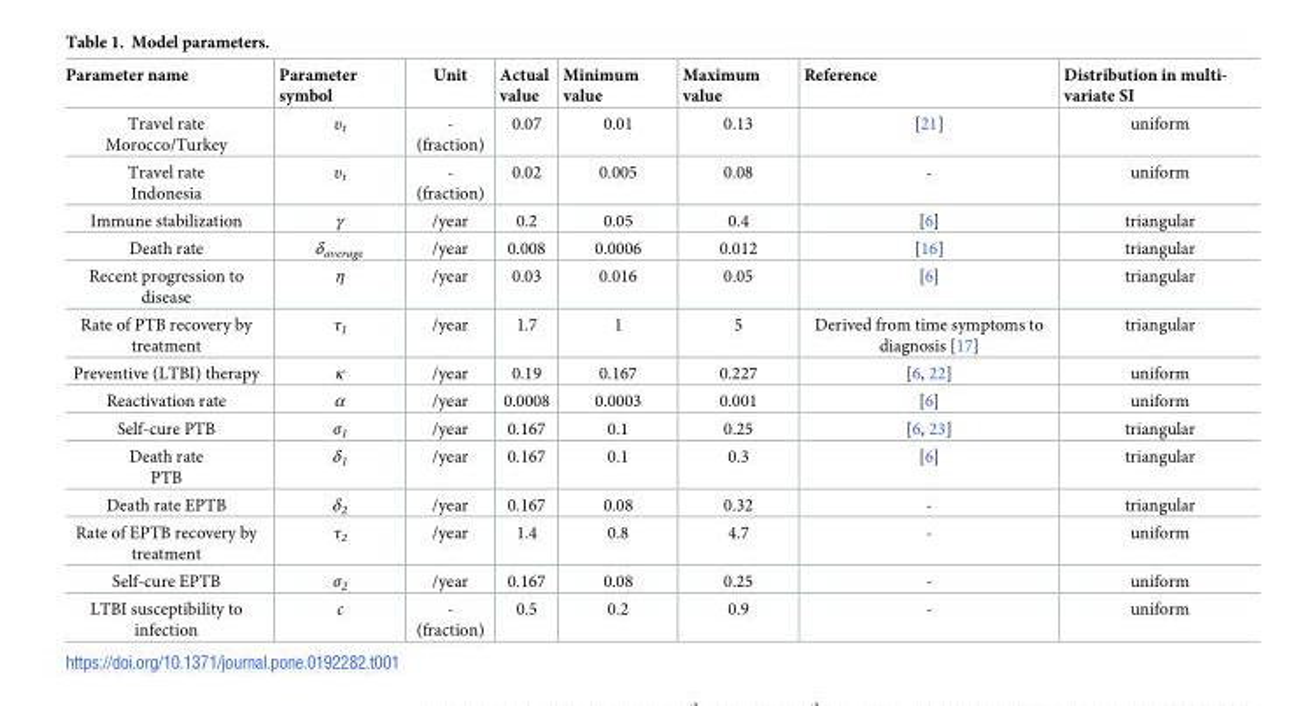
<table><thead><tr><td>Parameter name</td><td>Parameter symbol</td><td>Unit</td><td>Actual value</td><td>Minimum value</td><td>Maximum value</td><td>Reference</td><td>Distribution in multi- variate SI</td></tr></thead><tbody><tr><td>Travel rate Morocco/Turkey</td><td>υ<sub>t</sub></td><td>- (fraction)</td><td>0.07</td><td>0.01</td><td>0.13</td><td>[21]</td><td>uniform</td></tr><tr><td>Travel rate Indonesia</td><td>υ<sub>t</sub></td><td>- (fraction)</td><td>0.02</td><td>0.005</td><td>0.08</td><td>-</td><td>uniform</td></tr><tr><td>Immune stabilization</td><td>γ</td><td>/year</td><td>0.2</td><td>0.05</td><td>0.4</td><td>[6]</td><td>triangular</td></tr><tr><td>Death rate</td><td>δ<sub>average</sub></td><td>/year</td><td>0.008</td><td>0.0006</td><td>0.012</td><td>[16]</td><td>triangular</td></tr><tr><td>Recent progression to disease</td><td>η</td><td>/year</td><td>0.03</td><td>0.016</td><td>0.05</td><td>[6]</td><td>triangular</td></tr><tr><td>Rate of PTB recovery by treatment</td><td>τ<sub>1</sub></td><td>/year</td><td>1.7</td><td>1</td><td>5</td><td>Derived from time symptoms to diagnosis [17]</td><td>triangular</td></tr><tr><td>Preventive (LTBI) therapy</td><td>κ</td><td>/year</td><td>0.19</td><td>0.167</td><td>0.227</td><td>[6, 22]</td><td>uniform</td></tr><tr><td>Reactivation rate</td><td>α</td><td>/year</td><td>0.0008</td><td>0.0003</td><td>0.001</td><td>[6]</td><td>uniform</td></tr><tr><td>Self-cure PTB</td><td>σ<sub>1</sub></td><td>/year</td><td>0.167</td><td>0.1</td><td>0.25</td><td>[6, 23]</td><td>triangular</td></tr><tr><td>Death rate PTB</td><td>δ<sub>1</sub></td><td>/year</td><td>0.167</td><td>0.1</td><td>0.3</td><td>[6]</td><td>triangular</td></tr><tr><td>Death rate EPTB</td><td>δ<sub>2</sub></td><td>/year</td><td>0.167</td><td>0.08</td><td>0.32</td><td>-</td><td>triangular</td></tr><tr><td>Rate of EPTB recovery by treatment</td><td>τ<sub>2</sub></td><td>/year</td><td>1.4</td><td>0.8</td><td>4.7</td><td>-</td><td>uniform</td></tr><tr><td>Self-cure EPTB</td><td>σ<sub>2</sub></td><td>/year</td><td>0.167</td><td>0.08</td><td>0.25</td><td>-</td><td>uniform</td></tr><tr><td>LTBI susceptibility to infection</td><td>c</td><td>- (fraction)</td><td>0.5</td><td>0.2</td><td>0.9</td><td>-</td><td>uniform</td></tr></tbody></table>